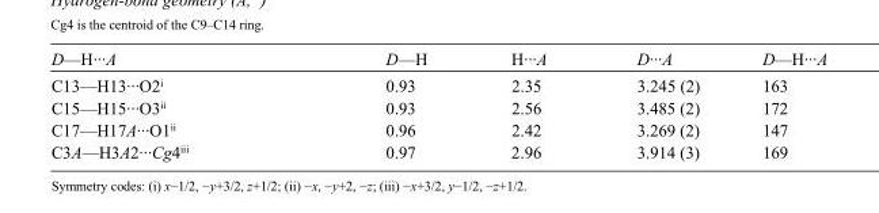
<table><tbody><tr><td>D—H···A</td><td>D—H</td><td>H···A</td><td>D···A</td><td>D—H···A</td></tr><tr><td>C13—H13···O2<sup>i</sup></td><td>0.93</td><td>2.35</td><td>3.245 (2)</td><td>163</td></tr><tr><td>C15—H15···O3<sup>ii</sup></td><td>0.93</td><td>2.56</td><td>3.485 (2)</td><td>172</td></tr><tr><td>C17—H17A···O1<sup>ii</sup></td><td>0.96</td><td>2.42</td><td>3.269 (2)</td><td>147</td></tr><tr><td>C3A—H3A2···Cg4<sup>iii</sup></td><td>0.97</td><td>2.96</td><td>3.914 (3)</td><td>169</td></tr></tbody></table>